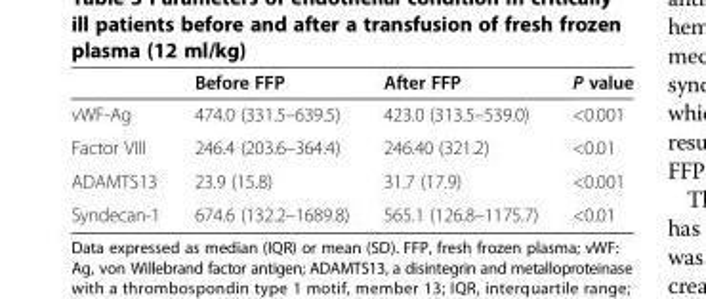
<table><thead><tr><td></td><td>Before FFP</td><td>After FFP</td><td>P value</td></tr></thead><tbody><tr><td>vWF-Ag</td><td>474.0 (331.5–639.5)</td><td>423.0 (313.5–539.0)</td><td>&lt;0.001</td></tr><tr><td>Factor VIII</td><td>246.4 (203.6–364.4)</td><td>246.40 (321.2)</td><td>&lt;0.01</td></tr><tr><td>ADAMTS13</td><td>23.9 (15.8)</td><td>31.7 (17.9)</td><td>&lt;0.001</td></tr><tr><td>Syndecan-1</td><td>674.6 (132.2–1689.8)</td><td>565.1 (126.8–1175.7)</td><td>&lt;0.01</td></tr></tbody></table>